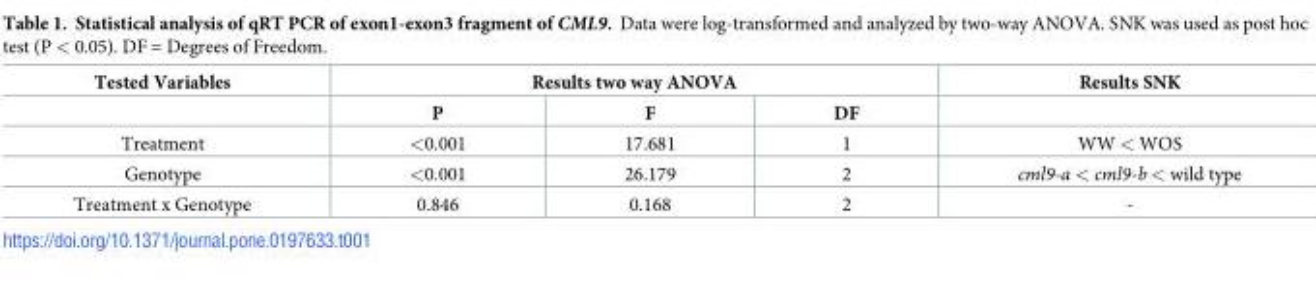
<table><thead><tr><td rowspan="2">Tested Variables</td><td colspan="3">Results two way ANOVA</td><td rowspan="2">Results SNK</td></tr><tr><td>P</td><td>F</td><td>DF</td></tr></thead><tbody><tr><td>Treatment</td><td>&lt;0.001</td><td>17.681</td><td>1</td><td>WW &lt; WOS</td></tr><tr><td>Genotype</td><td>&lt;0.001</td><td>26.179</td><td>2</td><td>cml9-a &lt; cml9-b &lt; wild type</td></tr><tr><td>Treatment x Genotype</td><td>0.846</td><td>0.168</td><td>2</td><td>-</td></tr></tbody></table>